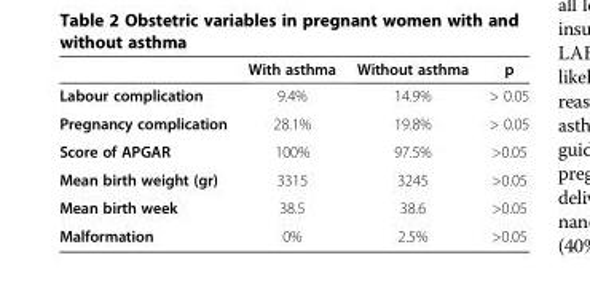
<table><thead><tr><td></td><td>With asthma</td><td>Without asthma</td><td>p</td></tr></thead><tbody><tr><td>Labour complication</td><td>9.4%</td><td>14.9%</td><td>&gt; 0.05</td></tr><tr><td>Pregnancy complication</td><td>28.1%</td><td>19.8%</td><td>&gt; 0.05</td></tr><tr><td>Score of APGAR</td><td>100%</td><td>97.5%</td><td>&gt;0.05</td></tr><tr><td>Mean birth weight (gr)</td><td>3315</td><td>3245</td><td>&gt;0.05</td></tr><tr><td>Mean birth week</td><td>38.5</td><td>38.6</td><td>&gt;0.05</td></tr><tr><td>Malformation</td><td>0%</td><td>2.5%</td><td>&gt;0.05</td></tr></tbody></table>